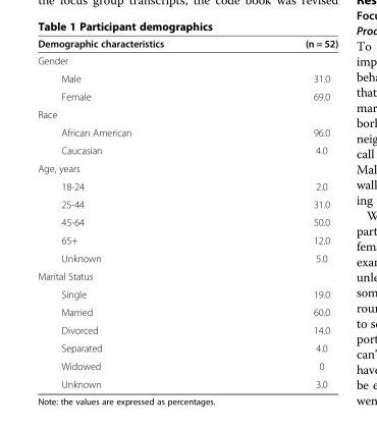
<table><thead><tr><td>Demographic characteristics</td><td>(n = 52)</td></tr></thead><tbody><tr><td colspan="2">Gender</td></tr><tr><td>Male</td><td>31.0</td></tr><tr><td>Female</td><td>69.0</td></tr><tr><td colspan="2">Race</td></tr><tr><td>African American</td><td>96.0</td></tr><tr><td>Caucasian</td><td>4.0</td></tr><tr><td colspan="2">Age, years</td></tr><tr><td>18-24</td><td>2.0</td></tr><tr><td>25-44</td><td>31.0</td></tr><tr><td>45-64</td><td>50.0</td></tr><tr><td>65+</td><td>12.0</td></tr><tr><td>Unknown</td><td>5.0</td></tr><tr><td colspan="2">Marital Status</td></tr><tr><td>Single</td><td>19.0</td></tr><tr><td>Married</td><td>60.0</td></tr><tr><td>Divorced</td><td>14.0</td></tr><tr><td>Separated</td><td>4.0</td></tr><tr><td>Widowed</td><td>0</td></tr><tr><td>Unknown</td><td>3.0</td></tr></tbody></table>